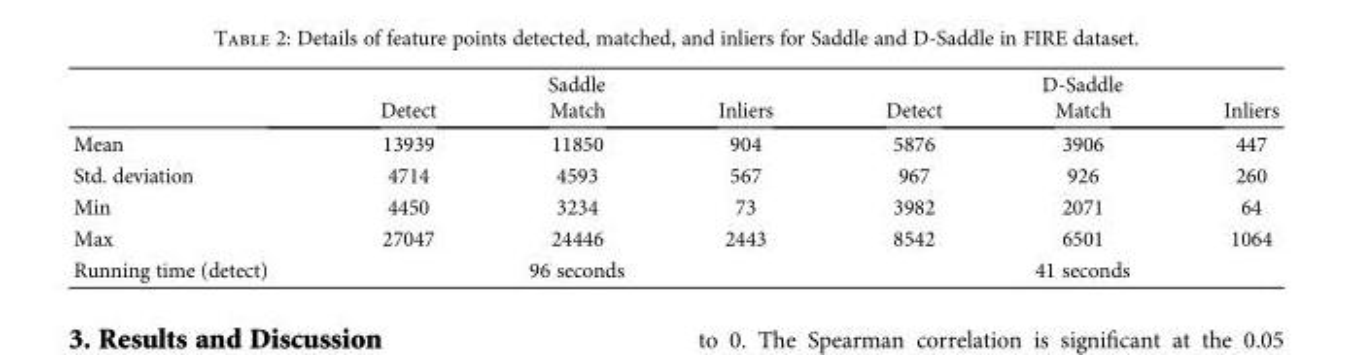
<table><thead><tr><td rowspan="2"></td><td colspan="3">Saddle</td><td colspan="3">D-Saddle</td></tr><tr><td>Detect</td><td>Match</td><td>Inliers</td><td>Detect</td><td>Match</td><td>Inliers</td></tr></thead><tbody><tr><td>Mean</td><td>13939</td><td>11850</td><td>904</td><td>5876</td><td>3906</td><td>447</td></tr><tr><td>Std. deviation</td><td>4714</td><td>4593</td><td>567</td><td>967</td><td>926</td><td>260</td></tr><tr><td>Min</td><td>4450</td><td>3234</td><td>73</td><td>3982</td><td>2071</td><td>64</td></tr><tr><td>Max</td><td>27047</td><td>24446</td><td>2443</td><td>8542</td><td>6501</td><td>1064</td></tr><tr><td>Running time (detect)</td><td colspan="3">96 seconds</td><td colspan="3">41 seconds</td></tr></tbody></table>